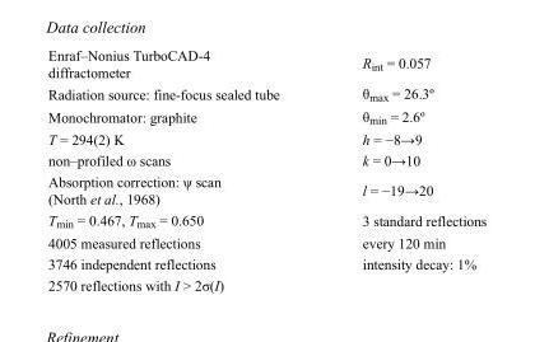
<table><tbody><tr><td>Enraf–Nonius TurboCAD-4 diffractometer</td><td>R<sub>int</sub> = 0.057</td></tr><tr><td>Radiation source: fine-focus sealed tube</td><td>θ<sub>max</sub> = 26.3º</td></tr><tr><td>Monochromator: graphite</td><td>θ<sub>min</sub> = 2.6º</td></tr><tr><td>T = 294(2) K</td><td>h = −8→9</td></tr><tr><td>non–profiled ω scans</td><td>k = 0→10</td></tr><tr><td>Absorption correction: ψ scan (North et al., 1968)</td><td>l = −19→20</td></tr><tr><td>T<sub>min</sub> = 0.467, T<sub>max</sub> = 0.650</td><td>3 standard reflections</td></tr><tr><td>4005 measured reflections</td><td>every 120 min</td></tr><tr><td>3746 independent reflections</td><td>intensity decay: 1%</td></tr><tr><td>2570 reflections with I &gt; 2σ(I)</td><td></td></tr></tbody></table>